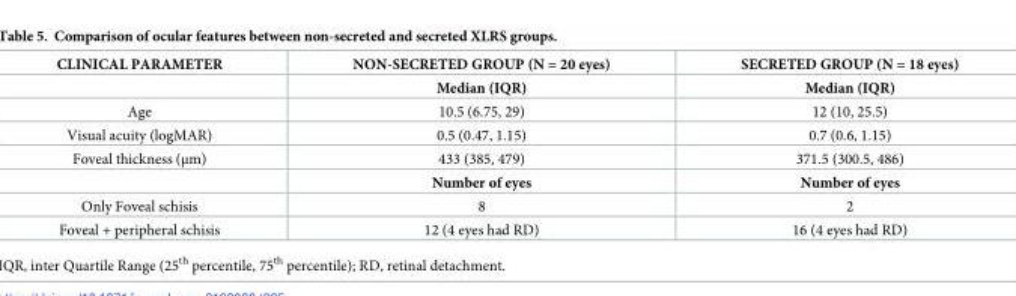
<table><thead><tr><td>CLINICAL PARAMETER</td><td>NON-SECRETED GROUP (N = 20 eyes)</td><td>SECRETED GROUP (N = 18 eyes)</td></tr></thead><tbody><tr><td></td><td>Median (IQR)</td><td>Median (IQR)</td></tr><tr><td>Age</td><td>10.5 (6.75, 29)</td><td>12 (10, 25.5)</td></tr><tr><td>Visual acuity (logMAR)</td><td>0.5 (0.47, 1.15)</td><td>0.7 (0.6, 1.15)</td></tr><tr><td rowspan="2">Foveal thickness (μm)</td><td>433 (385, 479)</td><td>371.5 (300.5, 486)</td></tr><tr><td>Number of eyes</td><td>Number of eyes</td></tr><tr><td>Only Foveal schisis</td><td>8</td><td>2</td></tr><tr><td>Foveal + peripheral schisis</td><td>12 (4 eyes had RD)</td><td>16 (4 eyes had RD)</td></tr></tbody></table>